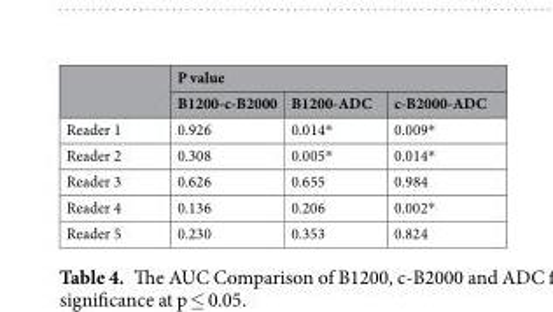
<table><thead><tr><td rowspan="2"></td><td colspan="3">P value</td></tr><tr><td>B1200-c-B2000</td><td>B1200-ADC</td><td>c-B2000-ADC</td></tr></thead><tbody><tr><td>Reader 1</td><td>0.926</td><td>0.014*</td><td>0.009*</td></tr><tr><td>Reader 2</td><td>0.308</td><td>0.005*</td><td>0.014*</td></tr><tr><td>Reader 3</td><td>0.626</td><td>0.655</td><td>0.984</td></tr><tr><td>Reader 4</td><td>0.136</td><td>0.206</td><td>0.002*</td></tr><tr><td>Reader 5</td><td>0.230</td><td>0.353</td><td>0.824</td></tr></tbody></table>